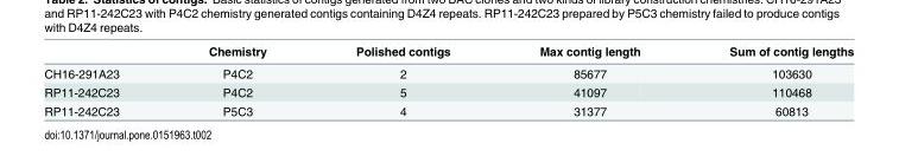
<table><thead><tr><td></td><td>Chemistry</td><td>Polished contigs</td><td>Max contig length</td><td>Sum of contig lengths</td></tr></thead><tbody><tr><td>CH16-291A23</td><td>P4C2</td><td>2</td><td>85677</td><td>103630</td></tr><tr><td>RP11-242C23</td><td>P4C2</td><td>5</td><td>41097</td><td>110468</td></tr><tr><td>RP11-242C23</td><td>P5C3</td><td>4</td><td>31377</td><td>60813</td></tr></tbody></table>